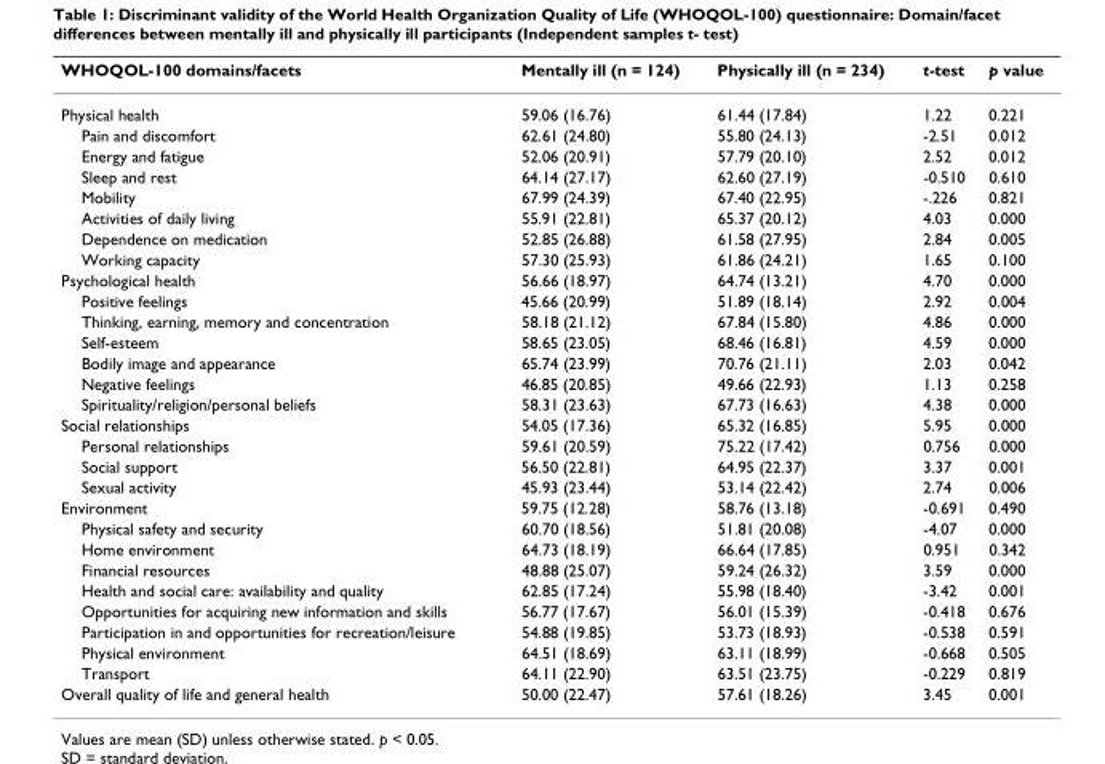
<table><thead><tr><td>WHOQOL-100 domains/facets</td><td>Mentally ill (n = 124)</td><td>Physically ill (n = 234)</td><td>t-test</td><td>p value</td></tr></thead><tbody><tr><td>Physical health</td><td>59.06 (16.76)</td><td>61.44 (17.84)</td><td>1.22</td><td>0.221</td></tr><tr><td>Pain and discomfort</td><td>62.61 (24.80)</td><td>55.80 (24.13)</td><td>-2.51</td><td>0.012</td></tr><tr><td>Energy and fatigue</td><td>52.06 (20.91)</td><td>57.79 (20.10)</td><td>2.52</td><td>0.012</td></tr><tr><td>Sleep and rest</td><td>64.14 (27.17)</td><td>62.60 (27.19)</td><td>-0.510</td><td>0.610</td></tr><tr><td>Mobility</td><td>67.99 (24.39)</td><td>67.40 (22.95)</td><td>-.226</td><td>0.821</td></tr><tr><td>Activities of daily living</td><td>55.91 (22.81)</td><td>65.37 (20.12)</td><td>4.03</td><td>0.000</td></tr><tr><td>Dependence on medication</td><td>52.85 (26.88)</td><td>61.58 (27.95)</td><td>2.84</td><td>0.005</td></tr><tr><td>Working capacity</td><td>57.30 (25.93)</td><td>61.86 (24.21)</td><td>1.65</td><td>0.100</td></tr><tr><td>Psychological health</td><td>56.66 (18.97)</td><td>64.74 (13.21)</td><td>4.70</td><td>0.000</td></tr><tr><td>Positive feelings</td><td>45.66 (20.99)</td><td>51.89 (18.14)</td><td>2.92</td><td>0.004</td></tr><tr><td>Thinking, earning, memory and concentration</td><td>58.18 (21.12)</td><td>67.84 (15.80)</td><td>4.86</td><td>0.000</td></tr><tr><td>Self-esteem</td><td>58.65 (23.05)</td><td>68.46 (16.81)</td><td>4.59</td><td>0.000</td></tr><tr><td>Bodily image and appearance</td><td>65.74 (23.99)</td><td>70.76 (21.11)</td><td>2.03</td><td>0.042</td></tr><tr><td>Negative feelings</td><td>46.85 (20.85)</td><td>49.66 (22.93)</td><td>1.13</td><td>0.258</td></tr><tr><td>Spirituality/religion/personal beliefs</td><td>58.31 (23.63)</td><td>67.73 (16.63)</td><td>4.38</td><td>0.000</td></tr><tr><td>Social relationships</td><td>54.05 (17.36)</td><td>65.32 (16.85)</td><td>5.95</td><td>0.000</td></tr><tr><td>Personal relationships</td><td>59.61 (20.59)</td><td>75.22 (17.42)</td><td>0.756</td><td>0.000</td></tr><tr><td>Social support</td><td>56.50 (22.81)</td><td>64.95 (22.37)</td><td>3.37</td><td>0.001</td></tr><tr><td>Sexual activity</td><td>45.93 (23.44)</td><td>53.14 (22.42)</td><td>2.74</td><td>0.006</td></tr><tr><td>Environment</td><td>59.75 (12.28)</td><td>58.76 (13.18)</td><td>-0.691</td><td>0.490</td></tr><tr><td>Physical safety and security</td><td>60.70 (18.56)</td><td>51.81 (20.08)</td><td>-4.07</td><td>0.000</td></tr><tr><td>Home environment</td><td>64.73 (18.19)</td><td>66.64 (17.85)</td><td>0.951</td><td>0.342</td></tr><tr><td>Financial resources</td><td>48.88 (25.07)</td><td>59.24 (26.32)</td><td>3.59</td><td>0.000</td></tr><tr><td>Health and social care: availability and quality</td><td>62.85 (17.24)</td><td>55.98 (18.40)</td><td>-3.42</td><td>0.001</td></tr><tr><td>Opportunities for acquiring new information and skills</td><td>56.77 (17.67)</td><td>56.01 (15.39)</td><td>-0.418</td><td>0.676</td></tr><tr><td>Participation in and opportunities for recreation/leisure</td><td>54.88 (19.85)</td><td>53.73 (18.93)</td><td>-0.538</td><td>0.591</td></tr><tr><td>Physical environment</td><td>64.51 (18.69)</td><td>63.11 (18.99)</td><td>-0.668</td><td>0.505</td></tr><tr><td>Transport</td><td>64.11 (22.90)</td><td>63.51 (23.75)</td><td>-0.229</td><td>0.819</td></tr><tr><td>Overall quality of life and general health</td><td>50.00 (22.47)</td><td>57.61 (18.26)</td><td>3.45</td><td>0.001</td></tr></tbody></table>